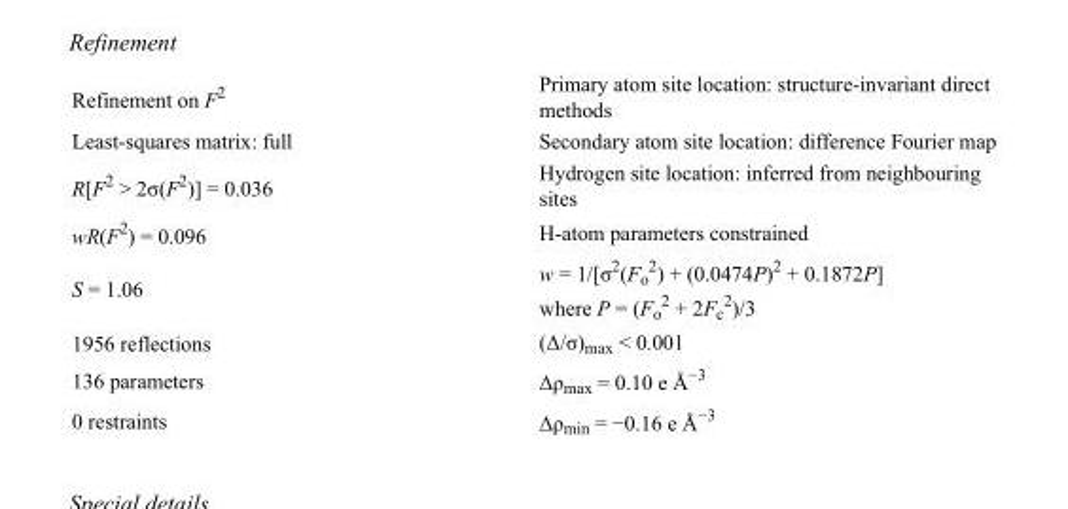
<table><tbody><tr><td>Refinement on F<sup>2</sup></td><td>Primary atom site location: structure-invariant direct methods</td></tr><tr><td>Least-squares matrix: full</td><td>Secondary atom site location: difference Fourier map</td></tr><tr><td>R[F<sup>2</sup> &gt; 2σ(F<sup>2</sup>)] = 0.036</td><td>Hydrogen site location: inferred from neighbouring sites</td></tr><tr><td>wR(F<sup>2</sup>) = 0.096</td><td>H-atom parameters constrained</td></tr><tr><td>S = 1.06</td><td>w = 1/[σ<sup>2</sup>(F<sub>o</sub> <sup>2</sup>) + (0.0474P)<sup>2</sup> + 0.1872P] where P = (F<sub>o</sub> <sup>2</sup> + 2F<sub>c</sub> <sup>2</sup>)/3</td></tr><tr><td>1956 reflections</td><td>(Δ/σ)<sub>max</sub> &lt; 0.001</td></tr><tr><td>136 parameters</td><td>Δρ<sub>max</sub> = 0.10 e Å<sup>−3</sup></td></tr><tr><td>0 restraints</td><td>Δρ<sub>min</sub> = −0.16 e Å<sup>−3</sup></td></tr></tbody></table>